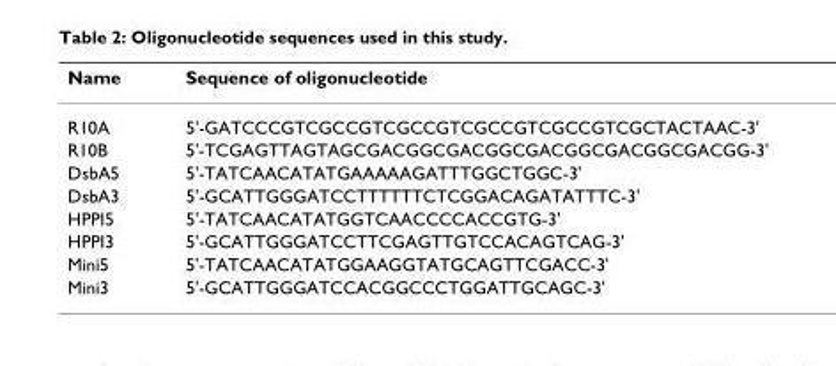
<table><thead><tr><td>Name</td><td>Sequence of oligonucleotide</td></tr></thead><tbody><tr><td>R10A</td><td>5&#x27;-GATCCCGTCGCCGTCGCCGTCGCCGTCGCCGTCGCTACTAAC-3&#x27;</td></tr><tr><td>R10B</td><td>5&#x27;-TCGAGTTAGTAGCGACGGCGACGGCGACGGCGACGGCGACGG-3&#x27;</td></tr><tr><td>DsbA5</td><td>5&#x27;-TATCAACATATGAAAAAGATTTGGCTGGC-3&#x27;</td></tr><tr><td>DsbA3</td><td>5&#x27;-GCATTGGGATCCTTTTTTCTCGGACAGATATTTC-3&#x27;</td></tr><tr><td>HPPI5</td><td>5&#x27;-TATCAACATATGGTCAACCCCACCGTG-3&#x27;</td></tr><tr><td>HPPI3</td><td>5&#x27;-GCATTGGGATCCTTCGAGTTGTCCACAGTCAG-3&#x27;</td></tr><tr><td>Mini5</td><td>5&#x27;-TATCAACATATGGAAGGTATGCAGTTCGACC-3&#x27;</td></tr><tr><td>Mini3</td><td>5&#x27;-GCATTGGGATCCACGGCCCTGGATTGCAGC-3&#x27;</td></tr></tbody></table>